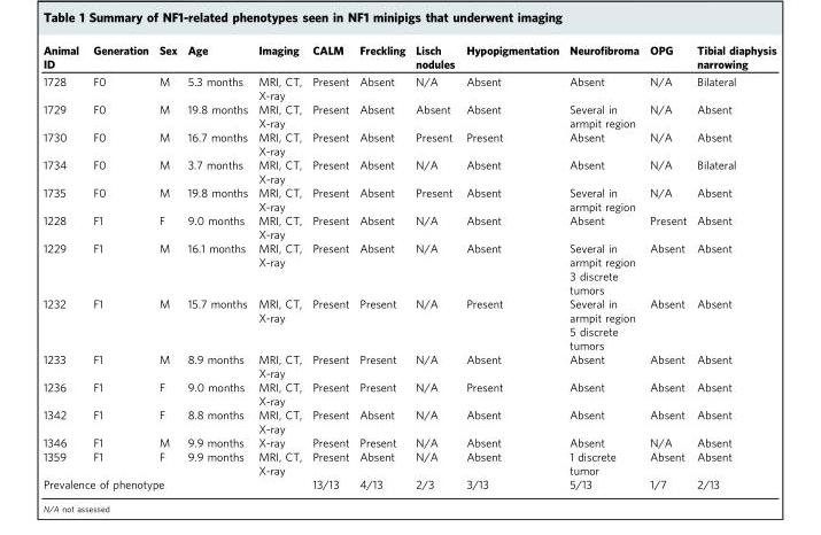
<table><thead><tr><td>Animal ID</td><td>Generation</td><td>Sex</td><td>Age</td><td>Imaging</td><td>CALM</td><td>Freckling</td><td>Lisch nodules</td><td>Hypopigmentation</td><td>Neurofibroma</td><td>OPG</td><td>Tibial diaphysis narrowing</td></tr></thead><tbody><tr><td>1728</td><td>F0</td><td>M</td><td>5.3 months</td><td>MRI, CT, X-ray</td><td>Present</td><td>Absent</td><td>N/A</td><td>Absent</td><td>Absent</td><td>N/A</td><td>Bilateral</td></tr><tr><td>1729</td><td>F0</td><td>M</td><td>19.8 months</td><td>MRI, CT, X-ray</td><td>Present</td><td>Absent</td><td>Absent</td><td>Absent</td><td>Several in armpit region</td><td>N/A</td><td>Absent</td></tr><tr><td>1730</td><td>F0</td><td>M</td><td>16.7 months</td><td>MRI, CT, X-ray</td><td>Present</td><td>Absent</td><td>Present</td><td>Present</td><td>Absent</td><td>N/A</td><td>Absent</td></tr><tr><td>1734</td><td>F0</td><td>M</td><td>3.7 months</td><td>MRI, CT, X-ray</td><td>Present</td><td>Absent</td><td>N/A</td><td>Absent</td><td>Absent</td><td>N/A</td><td>Bilateral</td></tr><tr><td>1735</td><td>F0</td><td>M</td><td>19.8 months</td><td>MRI, CT, X-ray</td><td>Present</td><td>Absent</td><td>Present</td><td>Absent</td><td>Several in armpit region</td><td>N/A</td><td>Absent</td></tr><tr><td>1228</td><td>F1</td><td>F</td><td>9.0 months</td><td>MRI, CT, X-ray</td><td>Present</td><td>Absent</td><td>N/A</td><td>Absent</td><td>Absent</td><td>Present</td><td>Absent</td></tr><tr><td rowspan="2">1229</td><td rowspan="2">F1</td><td rowspan="2">M</td><td rowspan="2">16.1 months</td><td rowspan="2">MRI, CT, X-ray</td><td rowspan="2">Present</td><td rowspan="2">Absent</td><td rowspan="2">N/A</td><td rowspan="2">Absent</td><td>Several in armpit region</td><td rowspan="2">Absent</td><td rowspan="2">Absent</td></tr><tr><td>3 discrete tumors</td></tr><tr><td rowspan="2">1232</td><td rowspan="2">F1</td><td rowspan="2">M</td><td rowspan="2">15.7 months</td><td rowspan="2">MRI, CT, X-ray</td><td rowspan="2">Present</td><td rowspan="2">Present</td><td rowspan="2">N/A</td><td rowspan="2">Present</td><td>Several in armpit region</td><td rowspan="2">Absent</td><td rowspan="2">Absent</td></tr><tr><td>5 discrete tumors</td></tr><tr><td>1233</td><td>F1</td><td>M</td><td>8.9 months</td><td>MRI, CT, X-ray</td><td>Present</td><td>Present</td><td>N/A</td><td>Absent</td><td>Absent</td><td>Absent</td><td>Absent</td></tr><tr><td>1236</td><td>F1</td><td>F</td><td>9.0 months</td><td>MRI, CT, X-ray</td><td>Present</td><td>Present</td><td>N/A</td><td>Present</td><td>Absent</td><td>Absent</td><td>Absent</td></tr><tr><td>1342</td><td>F1</td><td>F</td><td>8.8 months</td><td>MRI, CT, X-ray</td><td>Present</td><td>Absent</td><td>N/A</td><td>Absent</td><td>Absent</td><td>Absent</td><td>Absent</td></tr><tr><td>1346</td><td>F1</td><td>M</td><td>9.9 months</td><td>X-ray</td><td>Present</td><td>Present</td><td>N/A</td><td>Absent</td><td>Absent</td><td>N/A</td><td>Absent</td></tr><tr><td>1359</td><td>F1</td><td>F</td><td>9.9 months</td><td>MRI, CT, X-ray</td><td>Present</td><td>Absent</td><td>N/A</td><td>Absent</td><td>1 discrete tumor</td><td>Absent</td><td>Absent</td></tr><tr><td colspan="5">Prevalence of phenotype</td><td>13/13</td><td>4/13</td><td>2/3</td><td>3/13</td><td>5/13</td><td>1/7</td><td>2/13</td></tr></tbody></table>